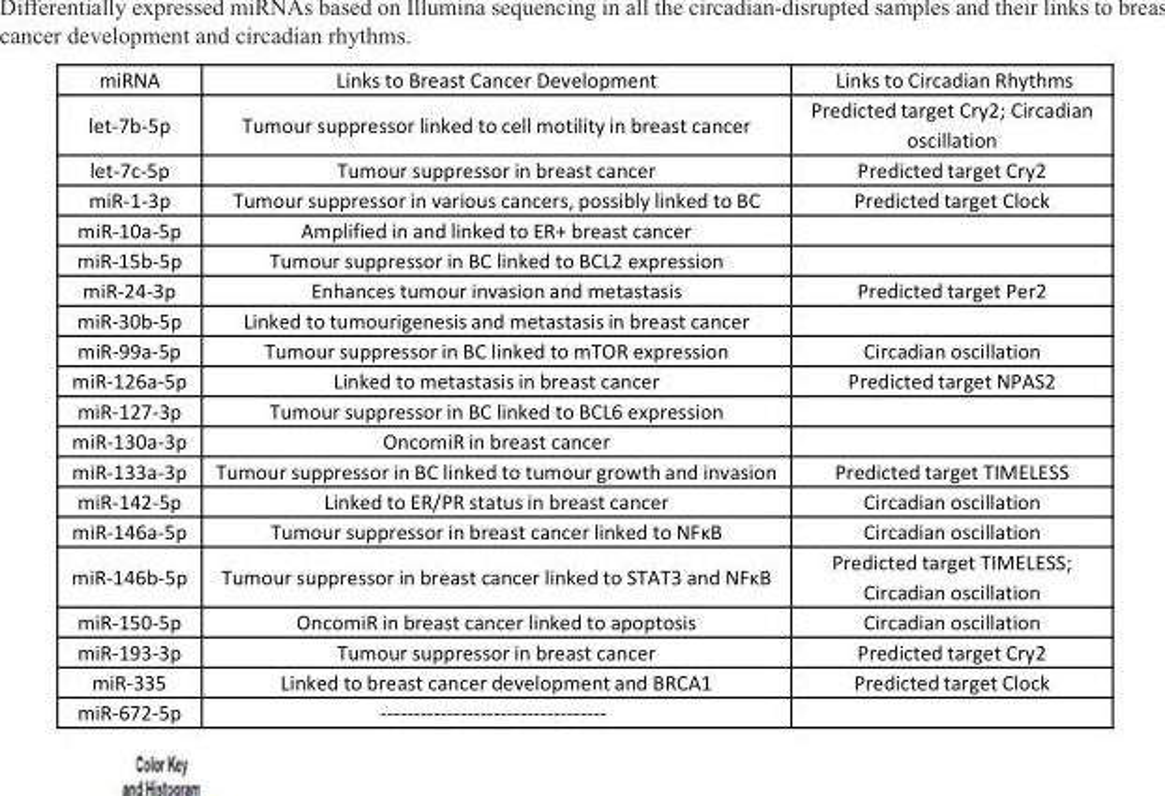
<table><thead><tr><td>miRNA</td><td>Links to Breast Cancer Development</td><td>Links to Circadian Rhythms</td></tr></thead><tbody><tr><td>let-7b-5p</td><td>Tumour suppressor linked to cell motility in breast cancer</td><td>Predicted target Cry2; Circadian oscillation</td></tr><tr><td>let-7c-5p</td><td>Tumour suppressor in breast cancer</td><td>Predicted target Cry2</td></tr><tr><td>miR-1-3p</td><td>Tumour suppressor in various cancers, possibly linked to BC</td><td>Predicted target Clock</td></tr><tr><td>miR-10a-5p</td><td>Amplified in and linked to ER+ breast cancer</td><td></td></tr><tr><td>miR-15b-5p</td><td>Tumour suppressor in BC linked to BCL2 expression</td><td></td></tr><tr><td>miR-24-3p</td><td>Enhances tumour invasion and metastasis</td><td>Predicted target Per2</td></tr><tr><td>miR-30b-5p</td><td>Linked to tumourigenesis and metastasis in breast cancer</td><td></td></tr><tr><td>miR-99a-5p</td><td>Tumour suppressor in BC linked to mTOR expression</td><td>Circadian oscillation</td></tr><tr><td>miR-126a-5p</td><td>Linked to metastasis in breast cancer</td><td>Predicted target NPAS2</td></tr><tr><td>miR-127-3p</td><td>Tumour suppressor in BC linked to BCL6 expression</td><td></td></tr><tr><td>miR-130a-3p</td><td>OncomiR in breast cancer</td><td></td></tr><tr><td>miR-133a-3p</td><td>Tumour suppressor in BC linked to tumour growth and invasion</td><td>Predicted target TIMELESS</td></tr><tr><td>miR-142-5p</td><td>Linked to ER/PR status in breast cancer</td><td>Circadian oscillation</td></tr><tr><td>miR-146a-5p</td><td>Tumour suppressor in breast cancer linked to NFκB</td><td>Circadian oscillation</td></tr><tr><td>miR-146b-5p</td><td>Tumour suppressor in breast cancer linked to STAT3 and NFκB</td><td>Predicted target TIMELESS; Circadian oscillation</td></tr><tr><td>miR-150-5p</td><td>OncomiR in breast cancer linked to apoptosis</td><td>Circadian oscillation</td></tr><tr><td>miR-193-3p</td><td>Tumour suppressor in breast cancer</td><td>Predicted target Cry2</td></tr><tr><td>miR-335</td><td>Linked to breast cancer development and BRCA1</td><td>Predicted target Clock</td></tr><tr><td>miR-672-5p</td><td>----------------------------------</td><td></td></tr></tbody></table>